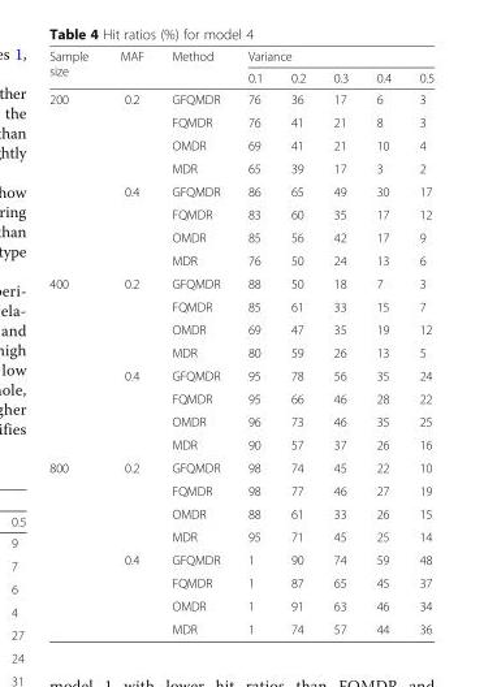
<table><thead><tr><td rowspan="2">Sample size</td><td rowspan="2">MAF</td><td rowspan="2">Method</td><td colspan="5">Variance</td></tr><tr><td>0.1</td><td>0.2</td><td>0.3</td><td>0.4</td><td>0.5</td></tr></thead><tbody><tr><td rowspan="8">200</td><td rowspan="4">0.2</td><td>GFQMDR</td><td>76</td><td>36</td><td>17</td><td>6</td><td>3</td></tr><tr><td>FQMDR</td><td>76</td><td>41</td><td>21</td><td>8</td><td>3</td></tr><tr><td>OMDR</td><td>69</td><td>41</td><td>21</td><td>10</td><td>4</td></tr><tr><td>MDR</td><td>65</td><td>39</td><td>17</td><td>3</td><td>2</td></tr><tr><td rowspan="4">0.4</td><td>GFQMDR</td><td>86</td><td>65</td><td>49</td><td>30</td><td>17</td></tr><tr><td>FQMDR</td><td>83</td><td>60</td><td>35</td><td>17</td><td>12</td></tr><tr><td>OMDR</td><td>85</td><td>56</td><td>42</td><td>17</td><td>9</td></tr><tr><td>MDR</td><td>76</td><td>50</td><td>24</td><td>13</td><td>6</td></tr><tr><td rowspan="8">400</td><td rowspan="4">0.2</td><td>GFQMDR</td><td>88</td><td>50</td><td>18</td><td>7</td><td>3</td></tr><tr><td>FQMDR</td><td>85</td><td>61</td><td>33</td><td>15</td><td>7</td></tr><tr><td>OMDR</td><td>69</td><td>47</td><td>35</td><td>19</td><td>12</td></tr><tr><td>MDR</td><td>80</td><td>59</td><td>26</td><td>13</td><td>5</td></tr><tr><td rowspan="4">0.4</td><td>GFQMDR</td><td>95</td><td>78</td><td>56</td><td>35</td><td>24</td></tr><tr><td>FQMDR</td><td>95</td><td>66</td><td>46</td><td>28</td><td>22</td></tr><tr><td>OMDR</td><td>96</td><td>73</td><td>46</td><td>35</td><td>25</td></tr><tr><td>MDR</td><td>90</td><td>57</td><td>37</td><td>26</td><td>16</td></tr><tr><td rowspan="8">800</td><td rowspan="4">0.2</td><td>GFQMDR</td><td>98</td><td>74</td><td>45</td><td>22</td><td>10</td></tr><tr><td>FQMDR</td><td>98</td><td>77</td><td>46</td><td>27</td><td>19</td></tr><tr><td>OMDR</td><td>88</td><td>61</td><td>33</td><td>26</td><td>15</td></tr><tr><td>MDR</td><td>95</td><td>71</td><td>45</td><td>25</td><td>14</td></tr><tr><td rowspan="4">0.4</td><td>GFQMDR</td><td>1</td><td>90</td><td>74</td><td>59</td><td>48</td></tr><tr><td>FQMDR</td><td>1</td><td>87</td><td>65</td><td>45</td><td>37</td></tr><tr><td>OMDR</td><td>1</td><td>91</td><td>63</td><td>46</td><td>34</td></tr><tr><td>MDR</td><td>1</td><td>74</td><td>57</td><td>44</td><td>36</td></tr></tbody></table>